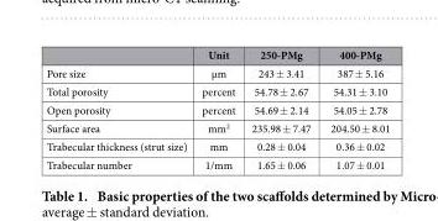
<table><thead><tr><td></td><td>Unit</td><td>250-PMg</td><td>400-PMg</td></tr></thead><tbody><tr><td>Pore size</td><td>μm</td><td>243 ± 3.41</td><td>387 ± 5.16</td></tr><tr><td>Total porosity</td><td>percent</td><td>54.78 ± 2.67</td><td>54.31 ± 3.10</td></tr><tr><td>Open porosity</td><td>percent</td><td>54.69 ± 2.14</td><td>54.05 ± 2.78</td></tr><tr><td>Surface area</td><td>mm<sup>2</sup></td><td>235.98 ± 7.47</td><td>204.50 ± 8.01</td></tr><tr><td>Trabecular thickness (strut size)</td><td>mm</td><td>0.28 ± 0.04</td><td>0.36 ± 0.02</td></tr><tr><td>Trabecular number</td><td>1/mm</td><td>1.65 ± 0.06</td><td>1.07 ± 0.01</td></tr></tbody></table>